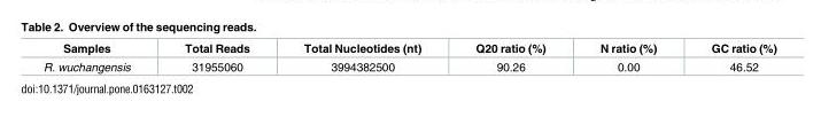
<table><thead><tr><td>Samples</td><td>Total Reads</td><td>Total Nucleotides (nt)</td><td>Q20 ratio (%)</td><td>N ratio (%)</td><td>GC ratio (%)</td></tr></thead><tbody><tr><td>R. wuchangensis</td><td>31955060</td><td>3994382500</td><td>90.26</td><td>0.00</td><td>46.52</td></tr></tbody></table>